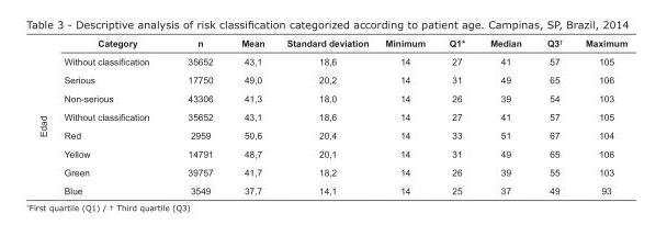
<table><thead><tr><td></td><td>Category</td><td>n</td><td>Mean</td><td>Standard deviation</td><td>Minimum</td><td>Q1*</td><td>Median</td><td>Q3<sup>†</sup></td><td>Maximum</td></tr></thead><tbody><tr><td rowspan="8">Edad</td><td>Without classification</td><td>35652</td><td>43,1</td><td>18,6</td><td>14</td><td>27</td><td>41</td><td>57</td><td>105</td></tr><tr><td>Serious</td><td>17750</td><td>49,0</td><td>20,2</td><td>14</td><td>31</td><td>49</td><td>65</td><td>106</td></tr><tr><td>Non-serious</td><td>43306</td><td>41,3</td><td>18,0</td><td>14</td><td>26</td><td>39</td><td>54</td><td>103</td></tr><tr><td>Without classification</td><td>35652</td><td>43,1</td><td>18,6</td><td>14</td><td>27</td><td>41</td><td>57</td><td>105</td></tr><tr><td>Red</td><td>2959</td><td>50,6</td><td>20,4</td><td>14</td><td>33</td><td>51</td><td>67</td><td>104</td></tr><tr><td>Yellow</td><td>14791</td><td>48,7</td><td>20,1</td><td>14</td><td>31</td><td>49</td><td>65</td><td>106</td></tr><tr><td>Green</td><td>39757</td><td>41,7</td><td>18,2</td><td>14</td><td>26</td><td>39</td><td>55</td><td>103</td></tr><tr><td>Blue</td><td>3549</td><td>37,7</td><td>14,1</td><td>14</td><td>25</td><td>37</td><td>49</td><td>93</td></tr></tbody></table>